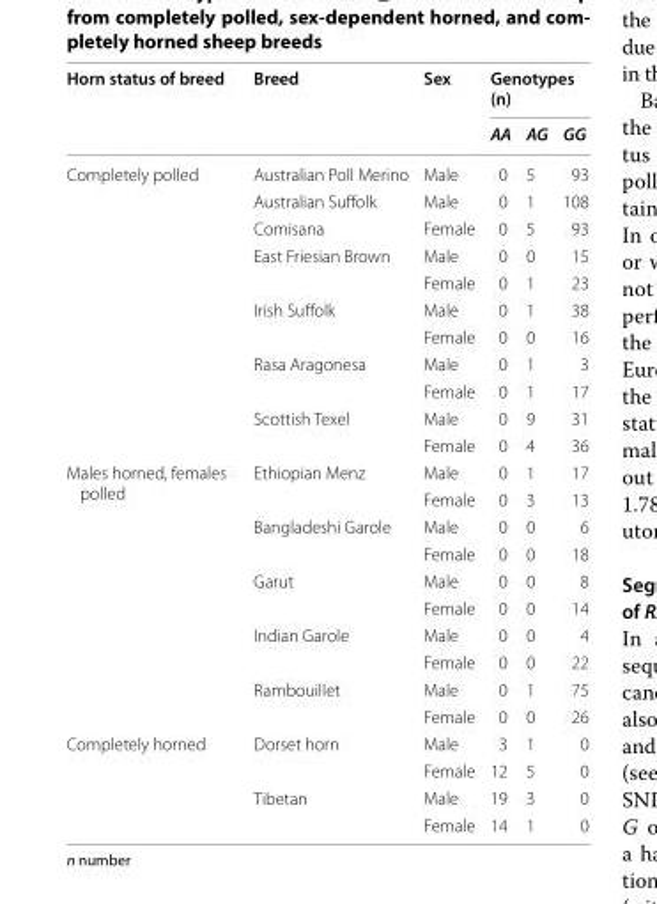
<table><thead><tr><td rowspan="2">Horn status of breed</td><td rowspan="2">Breed</td><td rowspan="2">Sex</td><td colspan="3">Genotypes (n)</td></tr><tr><td>AA</td><td>AG</td><td>GG</td></tr></thead><tbody><tr><td rowspan="11">Completely polled</td><td>Australian Poll Merino</td><td>Male</td><td>0</td><td>5</td><td>93</td></tr><tr><td>Australian Suffolk</td><td>Male</td><td>0</td><td>1</td><td>108</td></tr><tr><td>Comisana</td><td>Female</td><td>0</td><td>5</td><td>93</td></tr><tr><td rowspan="2">East Friesian Brown</td><td>Male</td><td>0</td><td>0</td><td>15</td></tr><tr><td>Female</td><td>0</td><td>1</td><td>23</td></tr><tr><td rowspan="2">Irish Suffolk</td><td>Male</td><td>0</td><td>1</td><td>38</td></tr><tr><td>Female</td><td>0</td><td>0</td><td>16</td></tr><tr><td rowspan="2">Rasa Aragonesa</td><td>Male</td><td>0</td><td>1</td><td>3</td></tr><tr><td>Female</td><td>0</td><td>1</td><td>17</td></tr><tr><td rowspan="2">Scottish Texel</td><td>Male</td><td>0</td><td>9</td><td>31</td></tr><tr><td>Female</td><td>0</td><td>4</td><td>36</td></tr><tr><td rowspan="10">Males horned, females polled</td><td rowspan="2">Ethiopian Menz</td><td>Male</td><td>0</td><td>1</td><td>17</td></tr><tr><td>Female</td><td>0</td><td>3</td><td>13</td></tr><tr><td rowspan="2">Bangladeshi Garole</td><td>Male</td><td>0</td><td>0</td><td>6</td></tr><tr><td>Female</td><td>0</td><td>0</td><td>18</td></tr><tr><td rowspan="2">Garut</td><td>Male</td><td>0</td><td>0</td><td>8</td></tr><tr><td>Female</td><td>0</td><td>0</td><td>14</td></tr><tr><td rowspan="2">Indian Garole</td><td>Male</td><td>0</td><td>0</td><td>4</td></tr><tr><td>Female</td><td>0</td><td>0</td><td>22</td></tr><tr><td rowspan="2">Rambouillet</td><td>Male</td><td>0</td><td>1</td><td>75</td></tr><tr><td>Female</td><td>0</td><td>0</td><td>26</td></tr><tr><td rowspan="4">Completely horned</td><td rowspan="2">Dorset horn</td><td>Male</td><td>3</td><td>1</td><td>0</td></tr><tr><td>Female</td><td>12</td><td>5</td><td>0</td></tr><tr><td rowspan="2">Tibetan</td><td>Male</td><td>19</td><td>3</td><td>0</td></tr><tr><td>Female</td><td>14</td><td>1</td><td>0</td></tr></tbody></table>